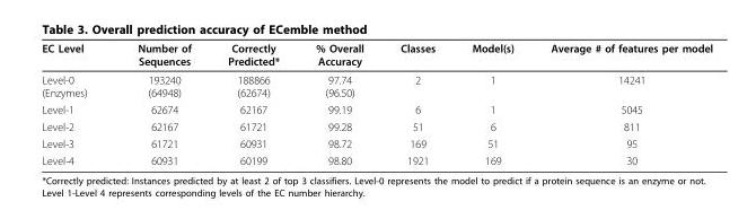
<table><thead><tr><td>EC Level</td><td>Number of Sequences</td><td>Correctly Predicted*</td><td>% Overall Accuracy</td><td>Classes</td><td>Model(s)</td><td>Average # of features per model</td></tr></thead><tbody><tr><td>Level-0 (Enzymes)</td><td>193240 (64948)</td><td>188866 (62674)</td><td>97.74 (96.50)</td><td>2</td><td>1</td><td>14241</td></tr><tr><td>Level-1</td><td>62674</td><td>62167</td><td>99.19</td><td>6</td><td>1</td><td>5045</td></tr><tr><td>Level-2</td><td>62167</td><td>61721</td><td>99.28</td><td>51</td><td>6</td><td>811</td></tr><tr><td>Level-3</td><td>61721</td><td>60931</td><td>98.72</td><td>169</td><td>51</td><td>95</td></tr><tr><td>Level-4</td><td>60931</td><td>60199</td><td>98.80</td><td>1921</td><td>169</td><td>30</td></tr></tbody></table>